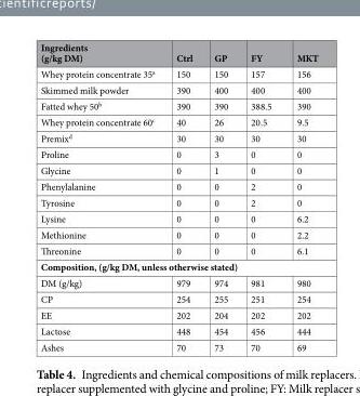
<table><thead><tr><td>Ingredients (g/kg DM)</td><td>Ctrl</td><td>GP</td><td>FY</td><td>MKT</td></tr></thead><tbody><tr><td>Whey protein concentrate 35<sup>a</sup></td><td>150</td><td>150</td><td>157</td><td>156</td></tr><tr><td>Skimmed milk powder</td><td>390</td><td>400</td><td>400</td><td>400</td></tr><tr><td>Fatted whey 50<sup>b</sup></td><td>390</td><td>390</td><td>388.5</td><td>390</td></tr><tr><td>Whey protein concentrate 60<sup>c</sup></td><td>40</td><td>26</td><td>20.5</td><td>9.5</td></tr><tr><td>Premix<sup>d</sup></td><td>30</td><td>30</td><td>30</td><td>30</td></tr><tr><td>Proline</td><td>0</td><td>3</td><td>0</td><td>0</td></tr><tr><td>Glycine</td><td>0</td><td>1</td><td>0</td><td>0</td></tr><tr><td>Phenylalanine</td><td>0</td><td>0</td><td>2</td><td>0</td></tr><tr><td>Tyrosine</td><td>0</td><td>0</td><td>2</td><td>0</td></tr><tr><td>Lysine</td><td>0</td><td>0</td><td>0</td><td>6.2</td></tr><tr><td>Methionine</td><td>0</td><td>0</td><td>0</td><td>2.2</td></tr><tr><td>Threonine</td><td>0</td><td>0</td><td>0</td><td>6.1</td></tr><tr><td colspan="5">Composition, (g/kg DM, unless otherwise stated)</td></tr><tr><td>DM (g/kg)</td><td>979</td><td>974</td><td>981</td><td>980</td></tr><tr><td>CP</td><td>254</td><td>255</td><td>251</td><td>254</td></tr><tr><td>EE</td><td>202</td><td>204</td><td>202</td><td>202</td></tr><tr><td>Lactose</td><td>448</td><td>454</td><td>456</td><td>444</td></tr><tr><td>Ashes</td><td>70</td><td>73</td><td>70</td><td>69</td></tr></tbody></table>